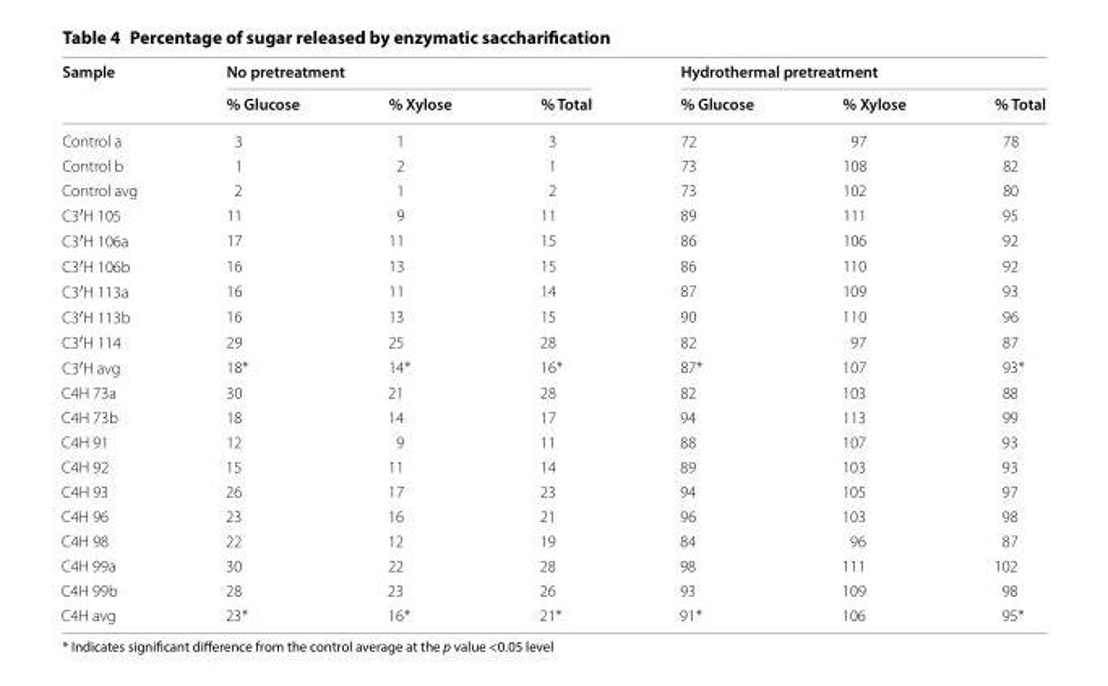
<table><thead><tr><td rowspan="2">Sample</td><td colspan="3">No pretreatment</td><td colspan="3">Hydrothermal pretreatment</td></tr><tr><td>% Glucose</td><td>% Xylose</td><td>% Total</td><td>% Glucose</td><td>% Xylose</td><td>% Total</td></tr></thead><tbody><tr><td>Control a</td><td>3</td><td>1</td><td>3</td><td>72</td><td>97</td><td>78</td></tr><tr><td>Control b</td><td>1</td><td>2</td><td>1</td><td>73</td><td>108</td><td>82</td></tr><tr><td>Control avg</td><td>2</td><td>1</td><td>2</td><td>73</td><td>102</td><td>80</td></tr><tr><td>C3′H 105</td><td>11</td><td>9</td><td>11</td><td>89</td><td>111</td><td>95</td></tr><tr><td>C3′H 106a</td><td>17</td><td>11</td><td>15</td><td>86</td><td>106</td><td>92</td></tr><tr><td>C3′H 106b</td><td>16</td><td>13</td><td>15</td><td>86</td><td>110</td><td>92</td></tr><tr><td>C3′H 113a</td><td>16</td><td>11</td><td>14</td><td>87</td><td>109</td><td>93</td></tr><tr><td>C3′H 113b</td><td>16</td><td>13</td><td>15</td><td>90</td><td>110</td><td>96</td></tr><tr><td>C3′H 114</td><td>29</td><td>25</td><td>28</td><td>82</td><td>97</td><td>87</td></tr><tr><td>C3′H avg</td><td>18*</td><td>14*</td><td>16*</td><td>87*</td><td>107</td><td>93*</td></tr><tr><td>C4H 73a</td><td>30</td><td>21</td><td>28</td><td>82</td><td>103</td><td>88</td></tr><tr><td>C4H 73b</td><td>18</td><td>14</td><td>17</td><td>94</td><td>113</td><td>99</td></tr><tr><td>C4H 91</td><td>12</td><td>9</td><td>11</td><td>88</td><td>107</td><td>93</td></tr><tr><td>C4H 92</td><td>15</td><td>11</td><td>14</td><td>89</td><td>103</td><td>93</td></tr><tr><td>C4H 93</td><td>26</td><td>17</td><td>23</td><td>94</td><td>105</td><td>97</td></tr><tr><td>C4H 96</td><td>23</td><td>16</td><td>21</td><td>96</td><td>103</td><td>98</td></tr><tr><td>C4H 98</td><td>22</td><td>12</td><td>19</td><td>84</td><td>96</td><td>87</td></tr><tr><td>C4H 99a</td><td>30</td><td>22</td><td>28</td><td>98</td><td>111</td><td>102</td></tr><tr><td>C4H 99b</td><td>28</td><td>23</td><td>26</td><td>93</td><td>109</td><td>98</td></tr><tr><td>C4H avg</td><td>23*</td><td>16*</td><td>21*</td><td>91*</td><td>106</td><td>95*</td></tr></tbody></table>